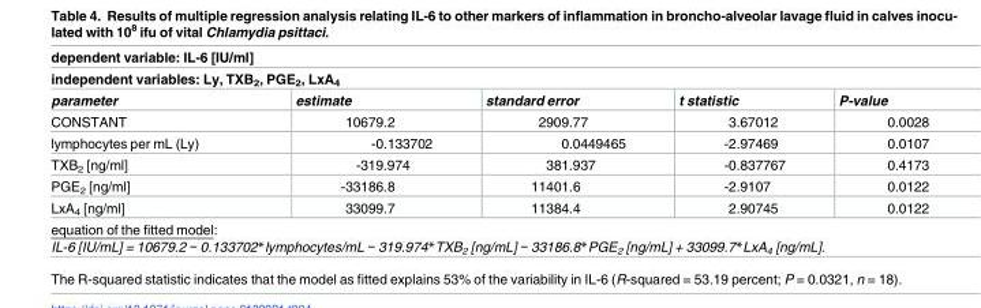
<table><thead><tr><td rowspan="2" colspan="5">dependent variable: IL-6 [IU/ml] independent variables: Ly, TXB<sub>2</sub>, PGE<sub>2</sub>, LxA<sub>4</sub></td></tr><tr></tr><tr><td>parameter</td><td>estimate</td><td>standard error</td><td>t statistic</td><td>P-value</td></tr></thead><tbody><tr><td>CONSTANT</td><td>10679.2</td><td>2909.77</td><td>3.67012</td><td>0.0028</td></tr><tr><td>lymphocytes per mL (Ly)</td><td>-0.133702</td><td>0.0449465</td><td>-2.97469</td><td>0.0107</td></tr><tr><td>TXB<sub>2</sub> [ng/ml]</td><td>-319.974</td><td>381.937</td><td>-0.837767</td><td>0.4173</td></tr><tr><td>PGE<sub>2</sub> [ng/ml]</td><td>-33186.8</td><td>11401.6</td><td>-2.9107</td><td>0.0122</td></tr><tr><td>LxA<sub>4</sub> [ng/ml]</td><td>33099.7</td><td>11384.4</td><td>2.90745</td><td>0.0122</td></tr><tr><td colspan="5">equation of the fitted model: IL-6 [IU/mL] = 10679.2 − 0.133702*lymphocytes/mL − 319.974*TXB<sub>2</sub> [ng/mL] − 33186.8*PGE<sub>2</sub> [ng/mL] + 33099.7*LxA<sub>4</sub> [ng/mL].</td></tr></tbody></table>